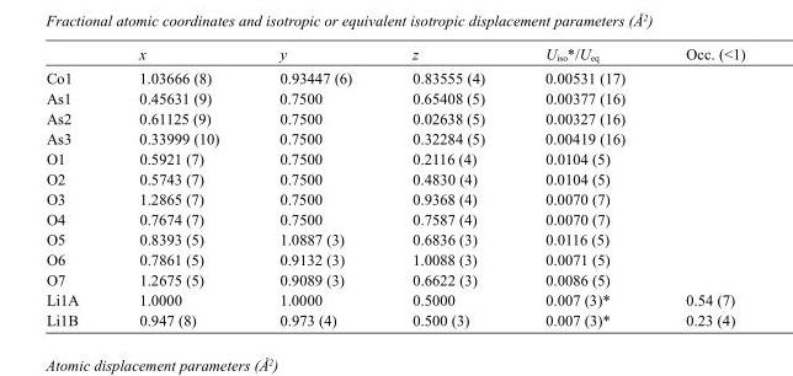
<table><thead><tr><td></td><td>x</td><td>y</td><td>z</td><td>U<sub>iso</sub>*/U<sub>eq</sub></td><td>Occ. (&lt;1)</td></tr></thead><tbody><tr><td>Co1</td><td>1.03666 (8)</td><td>0.93447 (6)</td><td>0.83555 (4)</td><td>0.00531 (17)</td><td></td></tr><tr><td>As1</td><td>0.45631 (9)</td><td>0.7500</td><td>0.65408 (5)</td><td>0.00377 (16)</td><td></td></tr><tr><td>As2</td><td>0.61125 (9)</td><td>0.7500</td><td>0.02638 (5)</td><td>0.00327 (16)</td><td></td></tr><tr><td>As3</td><td>0.33999 (10)</td><td>0.7500</td><td>0.32284 (5)</td><td>0.00419 (16)</td><td></td></tr><tr><td>O1</td><td>0.5921 (7)</td><td>0.7500</td><td>0.2116 (4)</td><td>0.0104 (5)</td><td></td></tr><tr><td>O2</td><td>0.5743 (7)</td><td>0.7500</td><td>0.4830 (4)</td><td>0.0104 (5)</td><td></td></tr><tr><td>O3</td><td>1.2865 (7)</td><td>0.7500</td><td>0.9368 (4)</td><td>0.0070 (7)</td><td></td></tr><tr><td>O4</td><td>0.7674 (7)</td><td>0.7500</td><td>0.7587 (4)</td><td>0.0070 (7)</td><td></td></tr><tr><td>O5</td><td>0.8393 (5)</td><td>1.0887 (3)</td><td>0.6836 (3)</td><td>0.0116 (5)</td><td></td></tr><tr><td>O6</td><td>0.7861 (5)</td><td>0.9132 (3)</td><td>1.0088 (3)</td><td>0.0071 (5)</td><td></td></tr><tr><td>O7</td><td>1.2675 (5)</td><td>0.9089 (3)</td><td>0.6622 (3)</td><td>0.0086 (5)</td><td></td></tr><tr><td>Li1A</td><td>1.0000</td><td>1.0000</td><td>0.5000</td><td>0.007 (3)*</td><td>0.54 (7)</td></tr><tr><td>Li1B</td><td>0.947 (8)</td><td>0.973 (4)</td><td>0.500 (3)</td><td>0.007 (3)*</td><td>0.23 (4)</td></tr></tbody></table>